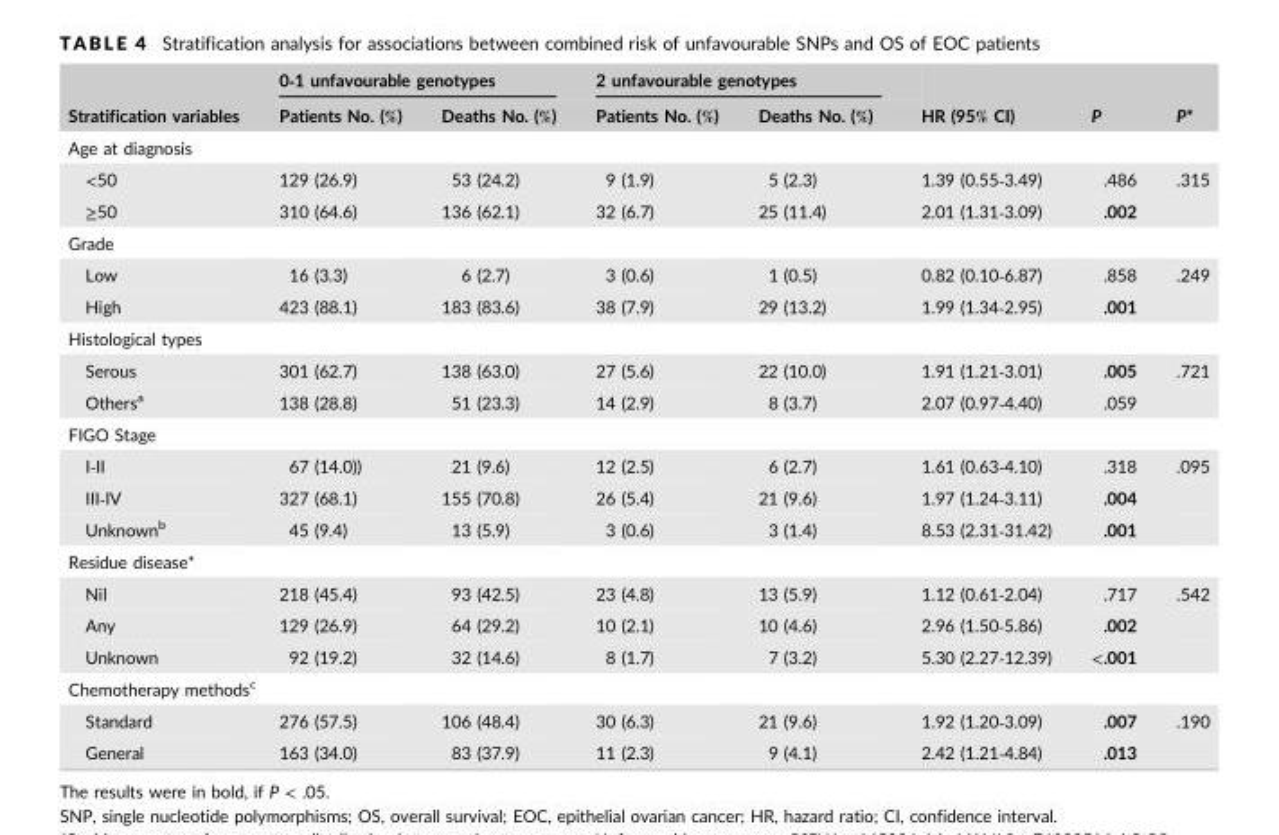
<table><thead><tr><td rowspan="2">Stratification variables</td><td colspan="2">0‐1 unfavourable genotypes</td><td colspan="2">2 unfavourable genotypes</td><td rowspan="2">HR (95% CI)</td><td rowspan="2">P</td><td rowspan="2">P*</td></tr><tr><td>Patients No. (%)</td><td>Deaths No. (%)</td><td>Patients No. (%)</td><td>Deaths No. (%)</td></tr></thead><tbody><tr><td colspan="8">Age at diagnosis</td></tr><tr><td>&lt;50</td><td>129 (26.9)</td><td>53 (24.2)</td><td>9 (1.9)</td><td>5 (2.3)</td><td>1.39 (0.55‐3.49)</td><td>.486</td><td>.315</td></tr><tr><td>≥50</td><td>310 (64.6)</td><td>136 (62.1)</td><td>32 (6.7)</td><td>25 (11.4)</td><td>2.01 (1.31‐3.09)</td><td>.002</td><td></td></tr><tr><td colspan="8">Grade</td></tr><tr><td>Low</td><td>16 (3.3)</td><td>6 (2.7)</td><td>3 (0.6)</td><td>1 (0.5)</td><td>0.82 (0.10‐6.87)</td><td>.858</td><td>.249</td></tr><tr><td>High</td><td>423 (88.1)</td><td>183 (83.6)</td><td>38 (7.9)</td><td>29 (13.2)</td><td>1.99 (1.34‐2.95)</td><td>.001</td><td></td></tr><tr><td colspan="8">Histological types</td></tr><tr><td>Serous</td><td>301 (62.7)</td><td>138 (63.0)</td><td>27 (5.6)</td><td>22 (10.0)</td><td>1.91 (1.21‐3.01)</td><td>.005</td><td>.721</td></tr><tr><td>Othersa</td><td>138 (28.8)</td><td>51 (23.3)</td><td>14 (2.9)</td><td>8 (3.7)</td><td>2.07 (0.97‐4.40)</td><td>.059</td><td></td></tr><tr><td colspan="8">FIGO Stage</td></tr><tr><td>I‐II</td><td>67 (14.0))</td><td>21 (9.6)</td><td>12 (2.5)</td><td>6 (2.7)</td><td>1.61 (0.63‐4.10)</td><td>.318</td><td>.095</td></tr><tr><td>III‐IV</td><td>327 (68.1)</td><td>155 (70.8)</td><td>26 (5.4)</td><td>21 (9.6)</td><td>1.97 (1.24‐3.11)</td><td>.004</td><td></td></tr><tr><td>Unknownb</td><td>45 (9.4)</td><td>13 (5.9)</td><td>3 (0.6)</td><td>3 (1.4)</td><td>8.53 (2.31‐31.42)</td><td>.001</td><td></td></tr><tr><td colspan="8">Residue disease*</td></tr><tr><td>Nil</td><td>218 (45.4)</td><td>93 (42.5)</td><td>23 (4.8)</td><td>13 (5.9)</td><td>1.12 (0.61‐2.04)</td><td>.717</td><td>.542</td></tr><tr><td>Any</td><td>129 (26.9)</td><td>64 (29.2)</td><td>10 (2.1)</td><td>10 (4.6)</td><td>2.96 (1.50‐5.86)</td><td>.002</td><td></td></tr><tr><td>Unknown</td><td>92 (19.2)</td><td>32 (14.6)</td><td>8 (1.7)</td><td>7 (3.2)</td><td>5.30 (2.27‐12.39)</td><td>&lt;.001</td><td></td></tr><tr><td colspan="8">Chemotherapy methodsc</td></tr><tr><td>Standard</td><td>276 (57.5)</td><td>106 (48.4)</td><td>30 (6.3)</td><td>21 (9.6)</td><td>1.92 (1.20‐3.09)</td><td>.007</td><td>.190</td></tr><tr><td>General</td><td>163 (34.0)</td><td>83 (37.9)</td><td>11 (2.3)</td><td>9 (4.1)</td><td>2.42 (1.21‐4.84)</td><td>.013</td><td></td></tr></tbody></table>